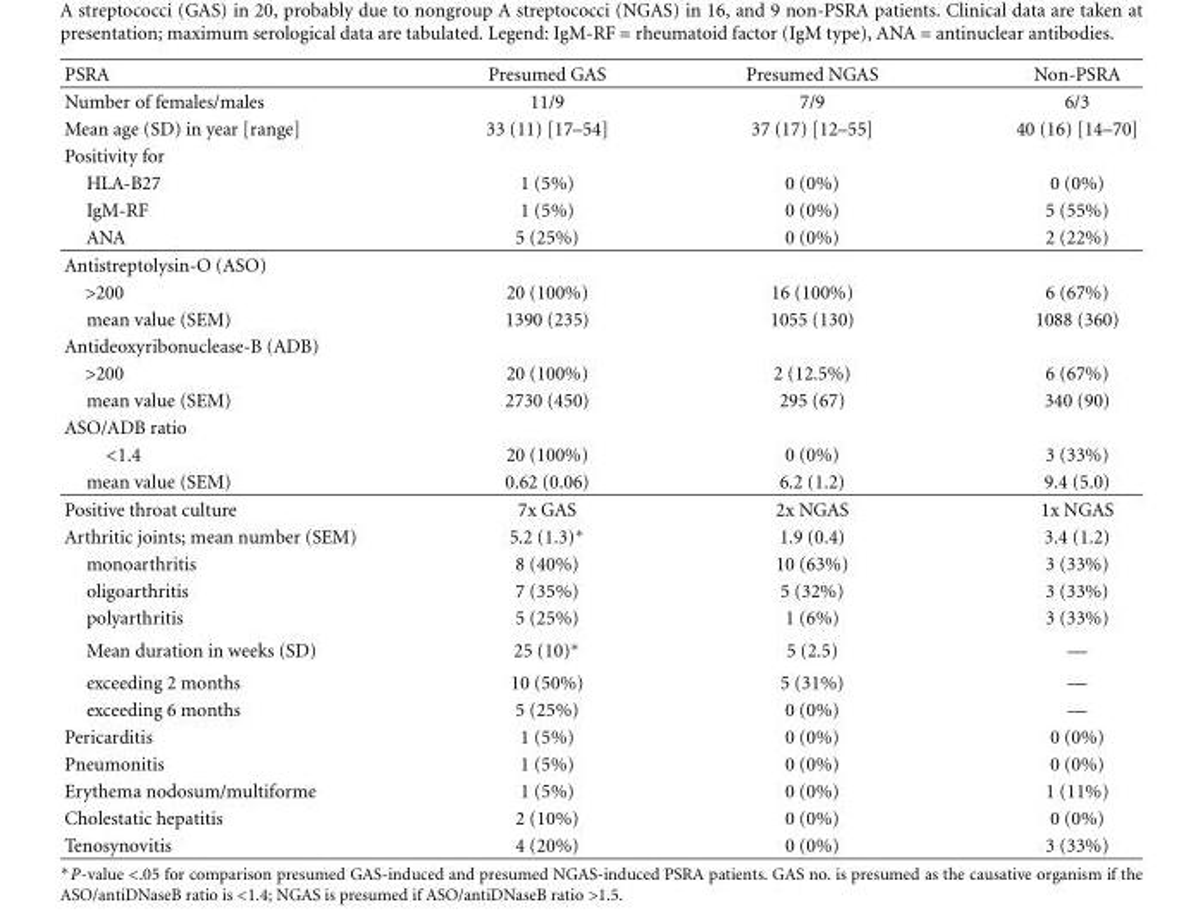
<table><thead><tr><td>PSRA</td><td>Presumed GAS</td><td>Presumed NGAS</td><td>Non-PSRA</td></tr></thead><tbody><tr><td>Number of females/males</td><td>11/9</td><td>7/9</td><td>6/3</td></tr><tr><td>Mean age (SD) in year [range]</td><td>33 (11) [17–54]</td><td>37 (17) [12–55]</td><td>40 (16) [14–70]</td></tr><tr><td colspan="4">Positivity for</td></tr><tr><td>HLA-B27</td><td>1 (5%)</td><td>0 (0%)</td><td>0 (0%)</td></tr><tr><td>IgM-RF</td><td>1 (5%)</td><td>0 (0%)</td><td>5 (55%)</td></tr><tr><td>ANA</td><td>5 (25%)</td><td>0 (0%)</td><td>2 (22%)</td></tr><tr><td colspan="4">Antistreptolysin-O (ASO)</td></tr><tr><td>&gt;200</td><td>20 (100%)</td><td>16 (100%)</td><td>6 (67%)</td></tr><tr><td>mean value (SEM)</td><td>1390 (235)</td><td>1055 (130)</td><td>1088 (360)</td></tr><tr><td colspan="4">Antideoxyribonuclease-B (ADB)</td></tr><tr><td>&gt;200</td><td>20 (100%)</td><td>2 (12.5%)</td><td>6 (67%)</td></tr><tr><td>mean value (SEM)</td><td>2730 (450)</td><td>295 (67)</td><td>340 (90)</td></tr><tr><td colspan="4">ASO/ADB ratio</td></tr><tr><td>&lt;1.4</td><td>20 (100%)</td><td>0 (0%)</td><td>3 (33%)</td></tr><tr><td>mean value (SEM)</td><td>0.62 (0.06)</td><td>6.2 (1.2)</td><td>9.4 (5.0)</td></tr><tr><td>Positive throat culture</td><td>7x GAS</td><td>2x NGAS</td><td>1x NGAS</td></tr><tr><td>Arthritic joints; mean number (SEM)</td><td>5.2 (1.3)∗</td><td>1.9 (0.4)</td><td>3.4 (1.2)</td></tr><tr><td>monoarthritis</td><td>8 (40%)</td><td>10 (63%)</td><td>3 (33%)</td></tr><tr><td>oligoarthritis</td><td>7 (35%)</td><td>5 (32%)</td><td>3 (33%)</td></tr><tr><td>polyarthritis</td><td>5 (25%)</td><td>1 (6%)</td><td>3 (33%)</td></tr><tr><td>Mean duration in weeks (SD)</td><td>25 (10)∗</td><td>5 (2.5)</td><td>—</td></tr><tr><td>exceeding 2 months</td><td>10 (50%)</td><td>5 (31%)</td><td>—</td></tr><tr><td>exceeding 6 months</td><td>5 (25%)</td><td>0 (0%)</td><td>—</td></tr><tr><td>Pericarditis</td><td>1 (5%)</td><td>0 (0%)</td><td>0 (0%)</td></tr><tr><td>Pneumonitis</td><td>1 (5%)</td><td>0 (0%)</td><td>0 (0%)</td></tr><tr><td>Erythema nodosum/multiforme</td><td>1 (5%)</td><td>0 (0%)</td><td>1 (11%)</td></tr><tr><td>Cholestatic hepatitis</td><td>2 (10%)</td><td>0 (0%)</td><td>0 (0%)</td></tr><tr><td>Tenosynovitis</td><td>4 (20%)</td><td>0 (0%)</td><td>3 (33%)</td></tr></tbody></table>